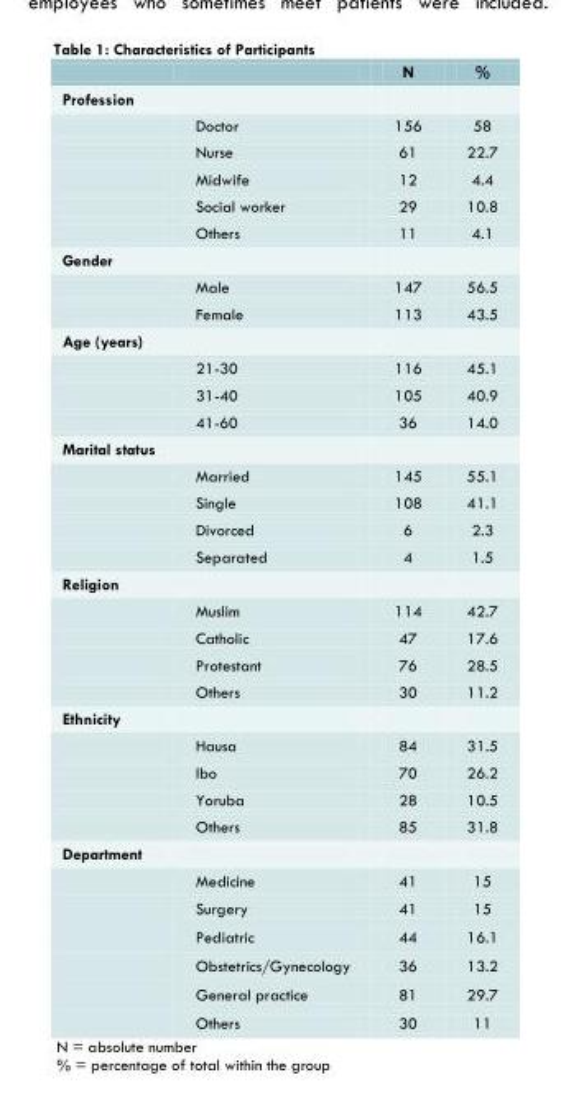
<table><thead><tr><td></td><td>N</td><td>%</td></tr></thead><tbody><tr><td colspan="3">Profession</td></tr><tr><td>Doctor</td><td>156</td><td>58</td></tr><tr><td>Nurse</td><td>61</td><td>22.7</td></tr><tr><td>Midwife</td><td>12</td><td>4.4</td></tr><tr><td>Social worker</td><td>29</td><td>10.8</td></tr><tr><td>Others</td><td>11</td><td>4.1</td></tr><tr><td colspan="3">Gender</td></tr><tr><td>Male</td><td>147</td><td>56.5</td></tr><tr><td>Female</td><td>113</td><td>43.5</td></tr><tr><td colspan="3">Age (years)</td></tr><tr><td>21-30</td><td>116</td><td>45.1</td></tr><tr><td>31-40</td><td>105</td><td>40.9</td></tr><tr><td>41-60</td><td>36</td><td>14.0</td></tr><tr><td colspan="3">Marital status</td></tr><tr><td>Married</td><td>145</td><td>55.1</td></tr><tr><td>Single</td><td>108</td><td>41.1</td></tr><tr><td>Divorced</td><td>6</td><td>2.3</td></tr><tr><td>Separated</td><td>4</td><td>1.5</td></tr><tr><td colspan="3">Religion</td></tr><tr><td>Muslim</td><td>114</td><td>42.7</td></tr><tr><td>Catholic</td><td>47</td><td>17.6</td></tr><tr><td>Protestant</td><td>76</td><td>28.5</td></tr><tr><td>Others</td><td>30</td><td>11.2</td></tr><tr><td colspan="3">Ethnicity</td></tr><tr><td>Hausa</td><td>84</td><td>31.5</td></tr><tr><td>Ibo</td><td>70</td><td>26.2</td></tr><tr><td>Yoruba</td><td>28</td><td>10.5</td></tr><tr><td>Others</td><td>85</td><td>31.8</td></tr><tr><td colspan="3">Department</td></tr><tr><td>Medicine</td><td>41</td><td>15</td></tr><tr><td>Surgery</td><td>41</td><td>15</td></tr><tr><td>Pediatric</td><td>44</td><td>16.1</td></tr><tr><td>Obstetrics/Gynecology</td><td>36</td><td>13.2</td></tr><tr><td>General practice</td><td>81</td><td>29.7</td></tr><tr><td>Others</td><td>30</td><td>11</td></tr></tbody></table>